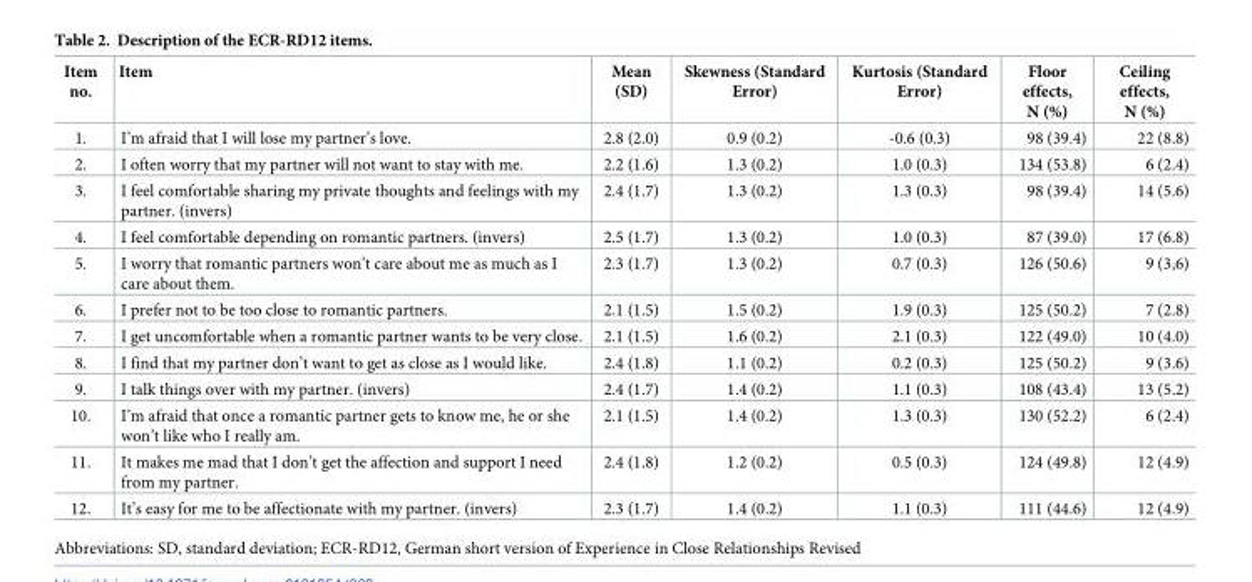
<table><thead><tr><td>Item no.</td><td>Item</td><td>Mean (SD)</td><td>Skewness (Standard Error)</td><td>Kurtosis (Standard Error)</td><td>Floor effects, N (%)</td><td>Ceiling effects, N (%)</td></tr></thead><tbody><tr><td>1.</td><td>I’m afraid that I will lose my partner’s love.</td><td>2.8 (2.0)</td><td>0.9 (0.2)</td><td>-0.6 (0.3)</td><td>98 (39.4)</td><td>22 (8.8)</td></tr><tr><td>2.</td><td>I often worry that my partner will not want to stay with me.</td><td>2.2 (1.6)</td><td>1.3 (0.2)</td><td>1.0 (0.3)</td><td>134 (53.8)</td><td>6 (2.4)</td></tr><tr><td>3.</td><td>I feel comfortable sharing my private thoughts and feelings with my partner. (invers)</td><td>2.4 (1.7)</td><td>1.3 (0.2)</td><td>1.3 (0.3)</td><td>98 (39.4)</td><td>14 (5.6)</td></tr><tr><td>4.</td><td>I feel comfortable depending on romantic partners. (invers)</td><td>2.5 (1.7)</td><td>1.3 (0.2)</td><td>1.0 (0.3)</td><td>87 (39.0)</td><td>17 (6.8)</td></tr><tr><td>5.</td><td>I worry that romantic partners won’t care about me as much as I care about them.</td><td>2.3 (1.7)</td><td>1.3 (0.2)</td><td>0.7 (0.3)</td><td>126 (50.6)</td><td>9 (3,6)</td></tr><tr><td>6.</td><td>I prefer not to be too close to romantic partners.</td><td>2.1 (1.5)</td><td>1.5 (0.2)</td><td>1.9 (0.3)</td><td>125 (50.2)</td><td>7 (2.8)</td></tr><tr><td>7.</td><td>I get uncomfortable when a romantic partner wants to be very close.</td><td>2.1 (1.5)</td><td>1.6 (0.2)</td><td>2.1 (0.3)</td><td>122 (49.0)</td><td>10 (4.0)</td></tr><tr><td>8.</td><td>I find that my partner don’t want to get as close as I would like.</td><td>2.4 (1.8)</td><td>1.1 (0.2)</td><td>0.2 (0.3)</td><td>125 (50.2)</td><td>9 (3.6)</td></tr><tr><td>9.</td><td>I talk things over with my partner. (invers)</td><td>2.4 (1.7)</td><td>1.4 (0.2)</td><td>1.1 (0.3)</td><td>108 (43.4)</td><td>13 (5.2)</td></tr><tr><td>10.</td><td>I’m afraid that once a romantic partner gets to know me, he or she won’t like who I really am.</td><td>2.1 (1.5)</td><td>1.4 (0.2)</td><td>1.3 (0.3)</td><td>130 (52.2)</td><td>6 (2.4)</td></tr><tr><td>11.</td><td>It makes me mad that I don’t get the affection and support I need from my partner.</td><td>2.4 (1.8)</td><td>1.2 (0.2)</td><td>0.5 (0.3)</td><td>124 (49.8)</td><td>12 (4.9)</td></tr><tr><td>12.</td><td>It’s easy for me to be affectionate with my partner. (invers)</td><td>2.3 (1.7)</td><td>1.4 (0.2)</td><td>1.1 (0.3)</td><td>111 (44.6)</td><td>12 (4.9)</td></tr></tbody></table>